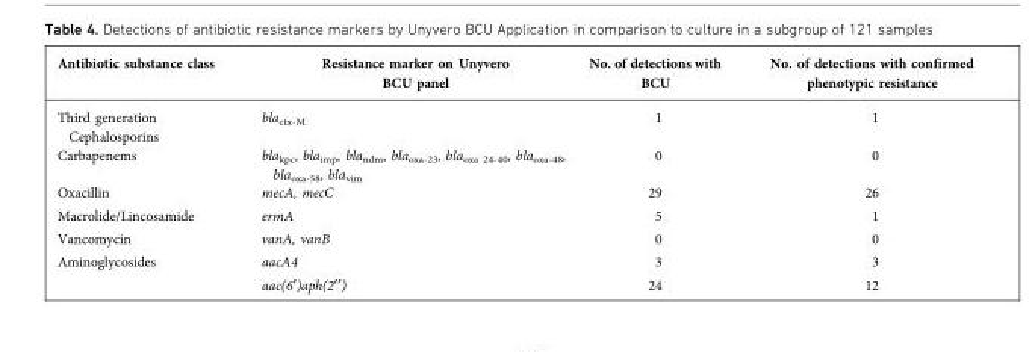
<table><thead><tr><td>Antibiotic substance class</td><td>Resistance marker on Unyvero BCU panel</td><td>No. of detections with BCU</td><td>No. of detections with confirmed phenotypic resistance</td></tr></thead><tbody><tr><td>Third generation Cephalosporins</td><td>bla<sub>ctx-M</sub></td><td>1</td><td>1</td></tr><tr><td>Carbapenems</td><td>bla<sub>kpc</sub>, bla<sub>imp</sub>, bla<sub>ndm</sub>, bla<sub>oxa-23</sub>, bla<sub>oxa 24-40</sub>, bla<sub>oxa-48</sub>, bla<sub>oxa-58</sub>, bla<sub>vim</sub></td><td>0</td><td>0</td></tr><tr><td>Oxacillin</td><td>mecA, mecC</td><td>29</td><td>26</td></tr><tr><td>Macrolide/Lincosamide</td><td>ermA</td><td>5</td><td>1</td></tr><tr><td>Vancomycin</td><td>vanA, vanB</td><td>0</td><td>0</td></tr><tr><td rowspan="2">Aminoglycosides</td><td>aacA4</td><td>3</td><td>3</td></tr><tr><td>aac(6¢)aph(2¢¢)</td><td>24</td><td>12</td></tr></tbody></table>